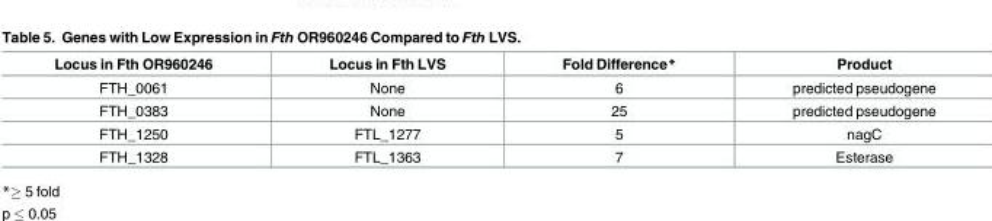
<table><thead><tr><td>Locus in Fth OR960246</td><td>Locus in Fth LVS</td><td>Fold Difference*</td><td>Product</td></tr></thead><tbody><tr><td>FTH_0061</td><td>None</td><td>6</td><td>predicted pseudogene</td></tr><tr><td>FTH_0383</td><td>None</td><td>25</td><td>predicted pseudogene</td></tr><tr><td>FTH_1250</td><td>FTL_1277</td><td>5</td><td>nagC</td></tr><tr><td>FTH_1328</td><td>FTL_1363</td><td>7</td><td>Esterase</td></tr></tbody></table>